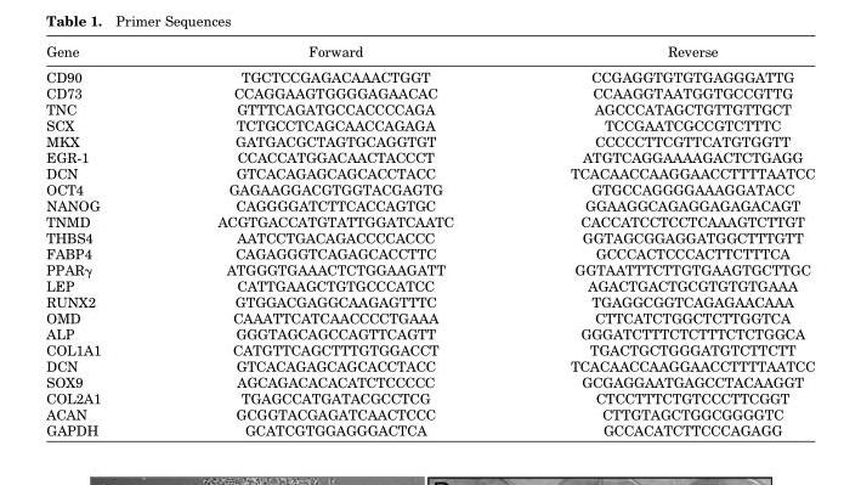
<table><thead><tr><td>Gene</td><td>Forward</td><td>Reverse</td></tr></thead><tbody><tr><td>CD90</td><td>TGCTCCGAGACAAACTGGT</td><td>CCGAGGTGTGTGAGGGATTG</td></tr><tr><td>CD73</td><td>CCAGGAAGTGGGGAGAACAC</td><td>CCAAGGTAATGGTGCCGTTG</td></tr><tr><td>TNC</td><td>GTTTCAGATGCCACCCCAGA</td><td>AGCCCATAGCTGTTGTTGCT</td></tr><tr><td>SCX</td><td>TCTGCCTCAGCAACCAGAGA</td><td>TCCGAATCGCCGTCTTTC</td></tr><tr><td>MKX</td><td>GATGACGCTAGTGCAGGTGT</td><td>CCCCCTTCGTTCATGTGGTT</td></tr><tr><td>EGR-1</td><td>CCACCATGGACAACTACCCT</td><td>ATGTCAGGAAAAGACTCTGAGG</td></tr><tr><td>DCN</td><td>GTCACAGAGCAGCACCTACC</td><td>TCACAACCAAGGAACCTTTTAATCC</td></tr><tr><td>OCT4</td><td>GAGAAGGACGTGGTACGAGTG</td><td>GTGCCAGGGGAAAGGATACC</td></tr><tr><td>NANOG</td><td>CAGGGGATCTTCACCAGTGC</td><td>GGAAGGCAGAGGAGAGACAGT</td></tr><tr><td>TNMD</td><td>ACGTGACCATGTATTGGATCAATC</td><td>CACCATCCTCCTCAAAGTCTTGT</td></tr><tr><td>THBS4</td><td>AATCCTGACAGACCCCACCC</td><td>GGTAGCGGAGGATGGCTTTGTT</td></tr><tr><td>FABP4</td><td>CAGAGGGTCAGAGCACCTTC</td><td>GCCCACTCCCACTTCTTTCA</td></tr><tr><td>PPARγ</td><td>ATGGGTGAAACTCTGGAAGATT</td><td>GGTAATTTCTTGTGAAGTGCTTGC</td></tr><tr><td>LEP</td><td>CATTGAAGCTGTGCCCATCC</td><td>AGACTGACTGCGTGTGTGAAA</td></tr><tr><td>RUNX2</td><td>GTGGACGAGGCAAGAGTTTC</td><td>TGAGGCGGTCAGAGAACAAA</td></tr><tr><td>OMD</td><td>CAAATTCATCAACCCCTGAAA</td><td>CTTCATCTGGCTCTTGGTCA</td></tr><tr><td>ALP</td><td>GGGTAGCAGCCAGTTCAGTT</td><td>GGGATCTTTCTCTTTCTCTGGCA</td></tr><tr><td>COL1A1</td><td>CATGTTCAGCTTTGTGGACCT</td><td>TGACTGCTGGGATGTCTTCTT</td></tr><tr><td>DCN</td><td>GTCACAGAGCAGCACCTACC</td><td>TCACAACCAAGGAACCTTTTAATCC</td></tr><tr><td>SOX9</td><td>AGCAGACACACATCTCCCCC</td><td>GCGAGGAATGAGCCTACAAGGT</td></tr><tr><td>COL2A1</td><td>TGAGCCATGATACGCCTCG</td><td>CTCCTTTCTGTCCCTTCGGT</td></tr><tr><td>ACAN</td><td>GCGGTACGAGATCAACTCCC</td><td>CTTGTAGCTGGCGGGGTC</td></tr><tr><td>GAPDH</td><td>GCATCGTGGAGGGACTCA</td><td>GCCACATCTTCCCAGAGG</td></tr></tbody></table>